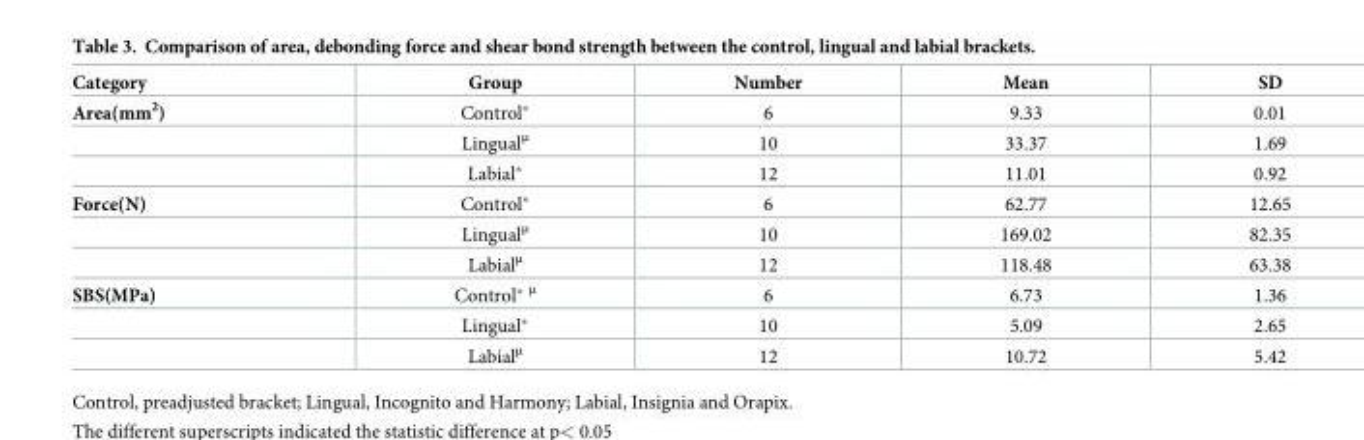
<table><thead><tr><td>Category</td><td>Group</td><td>Number</td><td>Mean</td><td>SD</td></tr></thead><tbody><tr><td rowspan="3">Area(mm<sup>2</sup>)</td><td>Control*</td><td>6</td><td>9.33</td><td>0.01</td></tr><tr><td>Lingual<sup>μ</sup></td><td>10</td><td>33.37</td><td>1.69</td></tr><tr><td>Labial*</td><td>12</td><td>11.01</td><td>0.92</td></tr><tr><td rowspan="3">Force(N)</td><td>Control*</td><td>6</td><td>62.77</td><td>12.65</td></tr><tr><td>Lingual<sup>μ</sup></td><td>10</td><td>169.02</td><td>82.35</td></tr><tr><td>Labial<sup>μ</sup></td><td>12</td><td>118.48</td><td>63.38</td></tr><tr><td rowspan="3">SBS(MPa)</td><td>Control* <sup>μ</sup></td><td>6</td><td>6.73</td><td>1.36</td></tr><tr><td>Lingual*</td><td>10</td><td>5.09</td><td>2.65</td></tr><tr><td>Labial<sup>μ</sup></td><td>12</td><td>10.72</td><td>5.42</td></tr></tbody></table>